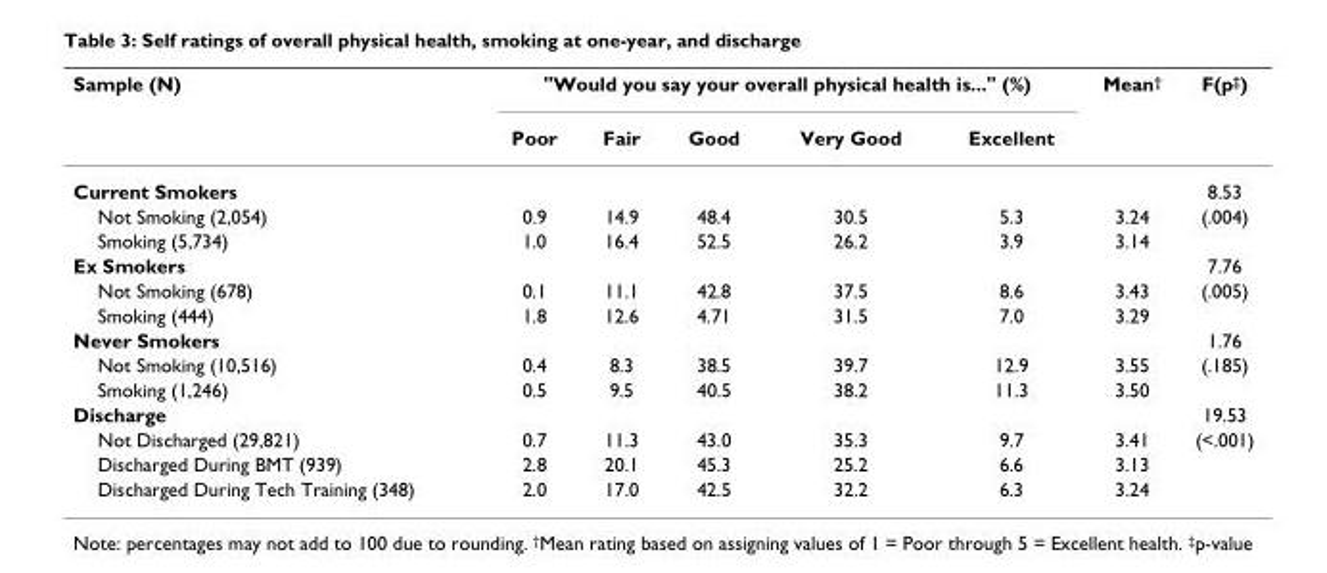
<table><thead><tr><td rowspan="2">Sample (N)</td><td colspan="5">&quot;Would you say your overall physical health is...&quot; (%)</td><td rowspan="2">Mean<sup>†</sup></td><td rowspan="2">F(p‡)</td></tr><tr><td>Poor</td><td>Fair</td><td>Good</td><td>Very Good</td><td>Excellent</td></tr></thead><tbody><tr><td>Current Smokers</td><td></td><td></td><td></td><td></td><td></td><td></td><td>8.53</td></tr><tr><td>Not Smoking (2,054)</td><td>0.9</td><td>14.9</td><td>48.4</td><td>30.5</td><td>5.3</td><td>3.24</td><td>(.004)</td></tr><tr><td>Smoking (5,734)</td><td>1.0</td><td>16.4</td><td>52.5</td><td>26.2</td><td>3.9</td><td>3.14</td><td></td></tr><tr><td>Ex Smokers</td><td></td><td></td><td></td><td></td><td></td><td></td><td>7.76</td></tr><tr><td>Not Smoking (678)</td><td>0.1</td><td>11.1</td><td>42.8</td><td>37.5</td><td>8.6</td><td>3.43</td><td>(.005)</td></tr><tr><td>Smoking (444)</td><td>1.8</td><td>12.6</td><td>4.71</td><td>31.5</td><td>7.0</td><td>3.29</td><td></td></tr><tr><td>Never Smokers</td><td></td><td></td><td></td><td></td><td></td><td></td><td>1.76</td></tr><tr><td>Not Smoking (10,516)</td><td>0.4</td><td>8.3</td><td>38.5</td><td>39.7</td><td>12.9</td><td>3.55</td><td>(.185)</td></tr><tr><td>Smoking (1,246)</td><td>0.5</td><td>9.5</td><td>40.5</td><td>38.2</td><td>11.3</td><td>3.50</td><td></td></tr><tr><td>Discharge</td><td></td><td></td><td></td><td></td><td></td><td></td><td>19.53</td></tr><tr><td>Not Discharged (29,821)</td><td>0.7</td><td>11.3</td><td>43.0</td><td>35.3</td><td>9.7</td><td>3.41</td><td>(&lt;.001)</td></tr><tr><td>Discharged During BMT (939)</td><td>2.8</td><td>20.1</td><td>45.3</td><td>25.2</td><td>6.6</td><td>3.13</td><td></td></tr><tr><td>Discharged During Tech Training (348)</td><td>2.0</td><td>17.0</td><td>42.5</td><td>32.2</td><td>6.3</td><td>3.24</td><td></td></tr></tbody></table>